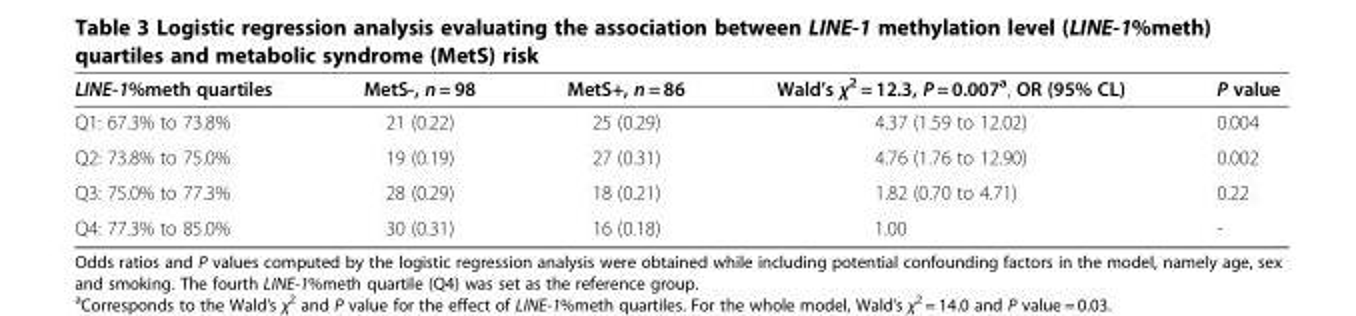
<table><thead><tr><td>LINE-1%meth quartiles</td><td>MetS-, n = 98</td><td>MetS+, n = 86</td><td>Wald’s χ<sup>2</sup> = 12.3, P = 0.007<sup>a</sup>, OR (95% CL)</td><td>P value</td></tr></thead><tbody><tr><td>Q1: 67.3% to 73.8%</td><td>21 (0.22)</td><td>25 (0.29)</td><td>4.37 (1.59 to 12.02)</td><td>0.004</td></tr><tr><td>Q2: 73.8% to 75.0%</td><td>19 (0.19)</td><td>27 (0.31)</td><td>4.76 (1.76 to 12.90)</td><td>0.002</td></tr><tr><td>Q3: 75.0% to 77.3%</td><td>28 (0.29)</td><td>18 (0.21)</td><td>1.82 (0.70 to 4.71)</td><td>0.22</td></tr><tr><td>Q4: 77.3% to 85.0%</td><td>30 (0.31)</td><td>16 (0.18)</td><td>1.00</td><td>-</td></tr></tbody></table>